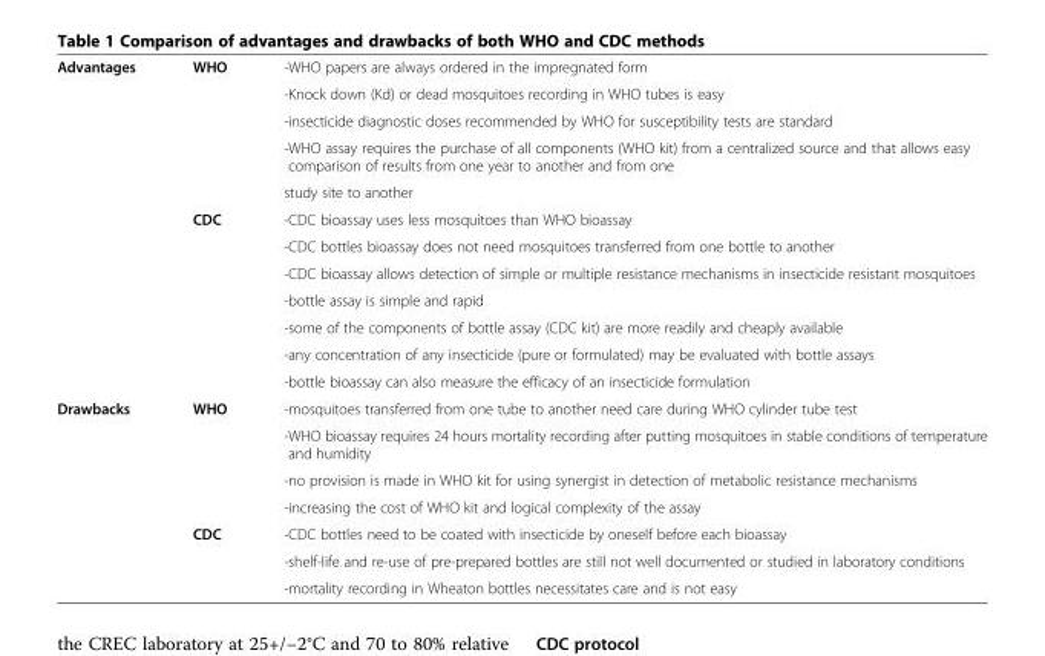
<table><tbody><tr><td rowspan="12">Advantages</td><td rowspan="5">WHO</td><td>-WHO papers are always ordered in the impregnated form</td></tr><tr><td>-Knock down (Kd) or dead mosquitoes recording in WHO tubes is easy</td></tr><tr><td>-insecticide diagnostic doses recommended by WHO for susceptibility tests are standard</td></tr><tr><td>-WHO assay requires the purchase of all components (WHO kit) from a centralized source and that allows easy comparison of results from one year to another and from one</td></tr><tr><td>study site to another</td></tr><tr><td rowspan="7">CDC</td><td>-CDC bioassay uses less mosquitoes than WHO bioassay</td></tr><tr><td>-CDC bottles bioassay does not need mosquitoes transferred from one bottle to another</td></tr><tr><td>-CDC bioassay allows detection of simple or multiple resistance mechanisms in insecticide resistant mosquitoes</td></tr><tr><td>-bottle assay is simple and rapid</td></tr><tr><td>-some of the components of bottle assay (CDC kit) are more readily and cheaply available</td></tr><tr><td>-any concentration of any insecticide (pure or formulated) may be evaluated with bottle assays</td></tr><tr><td>-bottle bioassay can also measure the efficacy of an insecticide formulation</td></tr><tr><td rowspan="7">Drawbacks</td><td rowspan="4">WHO</td><td>-mosquitoes transferred from one tube to another need care during WHO cylinder tube test</td></tr><tr><td>-WHO bioassay requires 24 hours mortality recording after putting mosquitoes in stable conditions of temperature and humidity</td></tr><tr><td>-no provision is made in WHO kit for using synergist in detection of metabolic resistance mechanisms</td></tr><tr><td>-increasing the cost of WHO kit and logical complexity of the assay</td></tr><tr><td rowspan="3">CDC</td><td>-CDC bottles need to be coated with insecticide by oneself before each bioassay</td></tr><tr><td>-shelf-life and re-use of pre-prepared bottles are still not well documented or studied in laboratory conditions</td></tr><tr><td>-mortality recording in Wheaton bottles necessitates care and is not easy</td></tr></tbody></table>